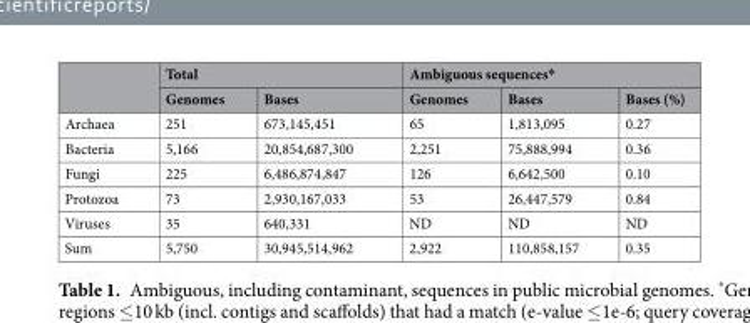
<table><thead><tr><td rowspan="2"></td><td colspan="2">Total</td><td colspan="3">Ambiguous sequences*</td></tr><tr><td>Genomes</td><td>Bases</td><td>Genomes</td><td>Bases</td><td>Bases (%)</td></tr></thead><tbody><tr><td>Archaea</td><td>251</td><td>673,145,451</td><td>65</td><td>1,813,095</td><td>0.27</td></tr><tr><td>Bacteria</td><td>5,166</td><td>20,854,687,300</td><td>2,251</td><td>75,888,994</td><td>0.36</td></tr><tr><td>Fungi</td><td>225</td><td>6,486,874,847</td><td>126</td><td>6,642,500</td><td>0.10</td></tr><tr><td>Protozoa</td><td>73</td><td>2,930,167,033</td><td>53</td><td>26,447,579</td><td>0.84</td></tr><tr><td>Viruses</td><td>35</td><td>640,331</td><td>ND</td><td>ND</td><td>ND</td></tr><tr><td>Sum</td><td>5,750</td><td>30,945,514,962</td><td>2,922</td><td>110,858,157</td><td>0.35</td></tr></tbody></table>